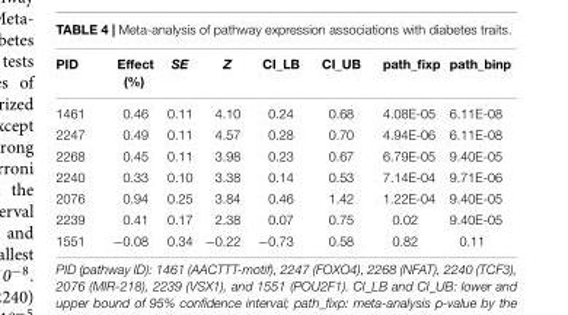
<table><thead><tr><td>PID</td><td>Effect (%)</td><td>SE</td><td>Z</td><td>CI_LB</td><td>CI_UB</td><td>path_fixp</td><td>path_binp</td></tr></thead><tbody><tr><td>1461</td><td>0.46</td><td>0.11</td><td>4.10</td><td>0.24</td><td>0.68</td><td>4.08E-05</td><td>6.11E-08</td></tr><tr><td>2247</td><td>0.49</td><td>0.11</td><td>4.57</td><td>0.28</td><td>0.70</td><td>4.94E-06</td><td>6.11E-08</td></tr><tr><td>2268</td><td>0.45</td><td>0.11</td><td>3.98</td><td>0.23</td><td>0.67</td><td>6.79E-05</td><td>9.40E-05</td></tr><tr><td>2240</td><td>0.33</td><td>0.10</td><td>3.38</td><td>0.14</td><td>0.53</td><td>7.14E-04</td><td>9.71E-06</td></tr><tr><td>2076</td><td>0.94</td><td>0.25</td><td>3.84</td><td>0.46</td><td>1.42</td><td>1.22E-04</td><td>9.40E-05</td></tr><tr><td>2239</td><td>0.41</td><td>0.17</td><td>2.38</td><td>0.07</td><td>0.75</td><td>0.02</td><td>9.40E-05</td></tr><tr><td>1551</td><td>−0.08</td><td>0.34</td><td>−0.22</td><td>−0.73</td><td>0.58</td><td>0.82</td><td>0.11</td></tr></tbody></table>